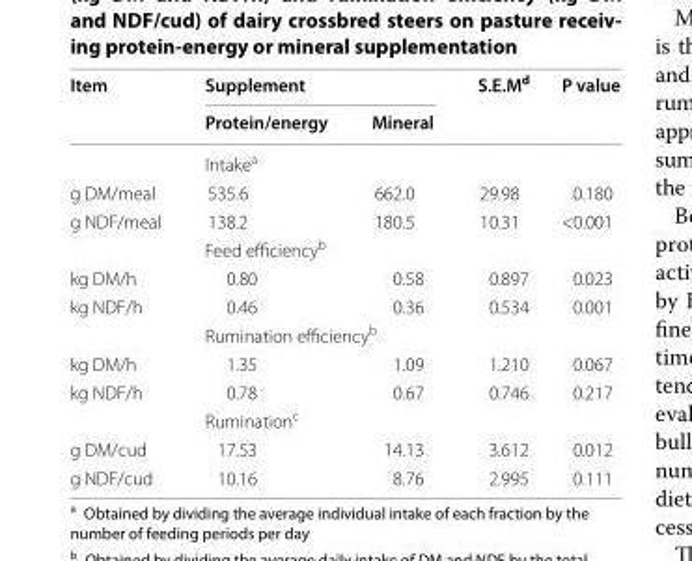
<table><thead><tr><td rowspan="2">Item</td><td colspan="2">Supplement</td><td rowspan="2">S.E.M<sup>d</sup></td><td rowspan="2">P value</td></tr><tr><td>Protein/energy</td><td>Mineral</td></tr></thead><tbody><tr><td></td><td colspan="2">Intake<sup>a</sup></td><td colspan="2"></td></tr><tr><td>g DM/meal</td><td>535.6</td><td>662.0</td><td>29.98</td><td>0.180</td></tr><tr><td rowspan="2">g NDF/meal</td><td>138.2</td><td>180.5</td><td>10.31</td><td>&lt;0.001</td></tr><tr><td colspan="2">Feed efficiency<sup>b</sup></td><td colspan="2"></td></tr><tr><td>kg DM/h</td><td>0.80</td><td>0.58</td><td>0.897</td><td>0.023</td></tr><tr><td rowspan="2">kg NDF/h</td><td>0.46</td><td>0.36</td><td>0.534</td><td>0.001</td></tr><tr><td colspan="2">Rumination efficiency<sup>b</sup></td><td colspan="2"></td></tr><tr><td>kg DM/h</td><td>1.35</td><td>1.09</td><td>1.210</td><td>0.067</td></tr><tr><td rowspan="2">kg NDF/h</td><td>0.78</td><td>0.67</td><td>0.746</td><td>0.217</td></tr><tr><td colspan="2">Rumination<sup>c</sup></td><td colspan="2"></td></tr><tr><td>g DM/cud</td><td>17.53</td><td>14.13</td><td>3.612</td><td>0.012</td></tr><tr><td>g NDF/cud</td><td>10.16</td><td>8.76</td><td>2.995</td><td>0.111</td></tr></tbody></table>